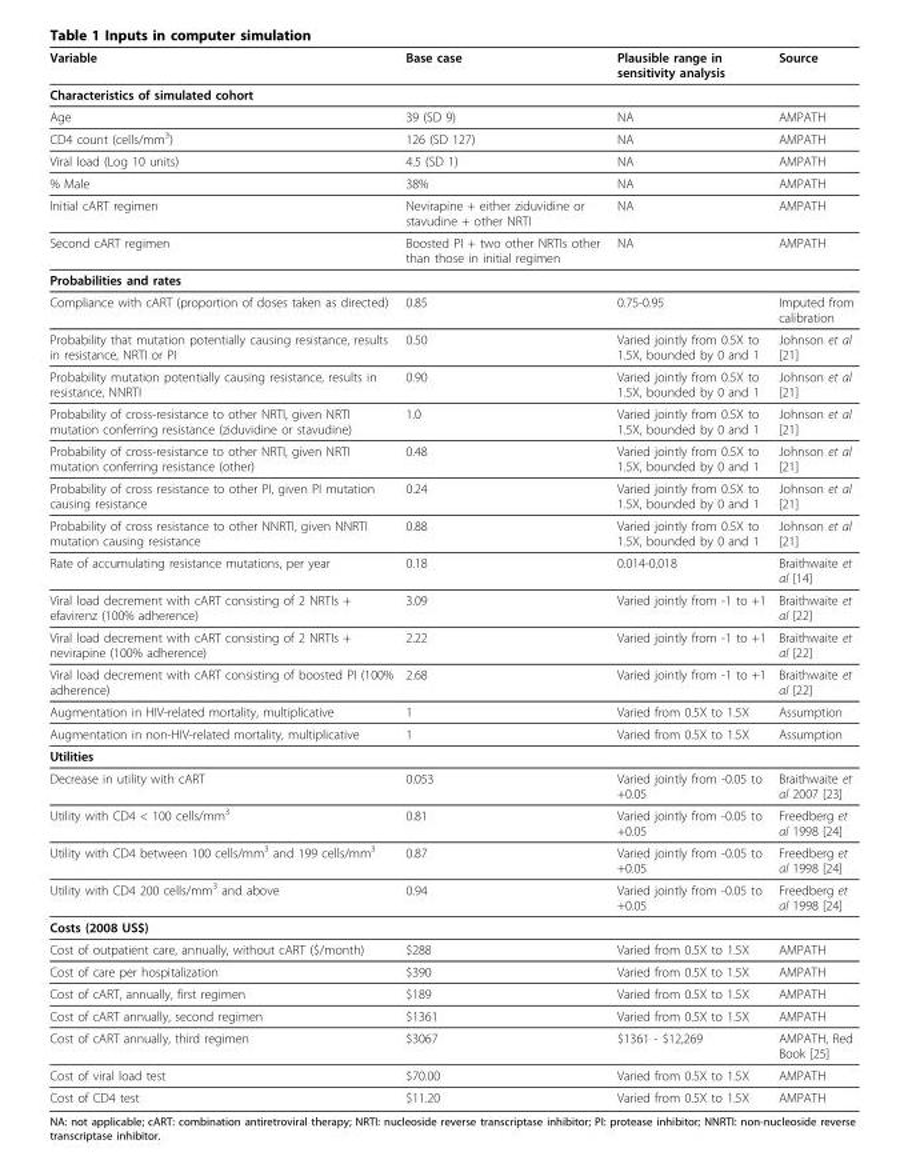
<table><thead><tr><td>Variable</td><td>Base case</td><td>Plausible range in sensitivity analysis</td><td>Source</td></tr></thead><tbody><tr><td colspan="4">Characteristics of simulated cohort</td></tr><tr><td>Age</td><td>39 (SD 9)</td><td>NA</td><td>AMPATH</td></tr><tr><td>CD4 count (cells/mm<sup>3</sup>)</td><td>126 (SD 127)</td><td>NA</td><td>AMPATH</td></tr><tr><td>Viral load (Log 10 units)</td><td>4.5 (SD 1)</td><td>NA</td><td>AMPATH</td></tr><tr><td>% Male</td><td>38%</td><td>NA</td><td>AMPATH</td></tr><tr><td>Initial cART regimen</td><td>Nevirapine + either ziduvidine or stavudine + other NRTI</td><td>NA</td><td>AMPATH</td></tr><tr><td>Second cART regimen</td><td>Boosted PI + two other NRTIs other than those in initial regimen</td><td>NA</td><td>AMPATH</td></tr><tr><td colspan="4">Probabilities and rates</td></tr><tr><td>Compliance with cART (proportion of doses taken as directed)</td><td>0.85</td><td>0.75-0.95</td><td>Imputed from calibration</td></tr><tr><td>Probability that mutation potentially causing resistance, results in resistance, NRTI or PI</td><td>0.50</td><td>Varied jointly from 0.5X to 1.5X, bounded by 0 and 1</td><td>Johnson et al [21]</td></tr><tr><td>Probability mutation potentially causing resistance, results in resistance, NNRTI</td><td>0.90</td><td>Varied jointly from 0.5X to 1.5X, bounded by 0 and 1</td><td>Johnson et al [21]</td></tr><tr><td>Probability of cross-resistance to other NRTI, given NRTI mutation conferring resistance (ziduvidine or stavudine)</td><td>1.0</td><td>Varied jointly from 0.5X to 1.5X, bounded by 0 and 1</td><td>Johnson et al [21]</td></tr><tr><td>Probability of cross-resistance to other NRTI, given NRTI mutation conferring resistance (other)</td><td>0.48</td><td>Varied jointly from 0.5X to 1.5X, bounded by 0 and 1</td><td>Johnson et al [21]</td></tr><tr><td>Probability of cross resistance to other PI, given PI mutation causing resistance</td><td>0.24</td><td>Varied jointly from 0.5X to 1.5X, bounded by 0 and 1</td><td>Johnson et al [21]</td></tr><tr><td>Probability of cross resistance to other NNRTI, given NNRTI mutation causing resistance</td><td>0.88</td><td>Varied jointly from 0.5X to 1.5X, bounded by 0 and 1</td><td>Johnson et al [21]</td></tr><tr><td>Rate of accumulating resistance mutations, per year</td><td>0.18</td><td>0.014-0.018</td><td>Braithwaite et al [14]</td></tr><tr><td>Viral load decrement with cART consisting of 2 NRTIs + efavirenz (100% adherence)</td><td>3.09</td><td>Varied jointly from -1 to +1</td><td>Braithwaite et al [22]</td></tr><tr><td>Viral load decrement with cART consisting of 2 NRTIs + nevirapine (100% adherence)</td><td>2.22</td><td>Varied jointly from -1 to +1</td><td>Braithwaite et al [22]</td></tr><tr><td>Viral load decrement with cART consisting of boosted PI (100% adherence)</td><td>2.68</td><td>Varied jointly from -1 to +1</td><td>Braithwaite et al [22]</td></tr><tr><td>Augmentation in HIV-related mortality, multiplicative</td><td>1</td><td>Varied from 0.5X to 1.5X</td><td>Assumption</td></tr><tr><td>Augmentation in non-HIV-related mortality, multiplicative</td><td>1</td><td>Varied from 0.5X to 1.5X</td><td>Assumption</td></tr><tr><td colspan="4">Utilities</td></tr><tr><td>Decrease in utility with cART</td><td>0.053</td><td>Varied jointly from -0.05 to +0.05</td><td>Braithwaite et al 2007 [23]</td></tr><tr><td>Utility with CD4 &lt; 100 cells/mm<sup>3</sup></td><td>0.81</td><td>Varied jointly from -0.05 to +0.05</td><td>Freedberg et al 1998 [24]</td></tr><tr><td>Utility with CD4 between 100 cells/mm<sup>3</sup> and 199 cells/mm<sup>3</sup></td><td>0.87</td><td>Varied jointly from -0.05 to +0.05</td><td>Freedberg et al 1998 [24]</td></tr><tr><td>Utility with CD4 200 cells/mm<sup>3</sup> and above</td><td>0.94</td><td>Varied jointly from -0.05 to +0.05</td><td>Freedberg et al 1998 [24]</td></tr><tr><td colspan="4">Costs (2008 US$)</td></tr><tr><td>Cost of outpatient care, annually, without cART ($/month)</td><td>$288</td><td>Varied from 0.5X to 1.5X</td><td>AMPATH</td></tr><tr><td>Cost of care per hospitalization</td><td>$390</td><td>Varied from 0.5X to 1.5X</td><td>AMPATH</td></tr><tr><td>Cost of cART, annually, first regimen</td><td>$189</td><td>Varied from 0.5X to 1.5X</td><td>AMPATH</td></tr><tr><td>Cost of cART annually, second regimen</td><td>$1361</td><td>Varied from 0.5X to 1.5X</td><td>AMPATH</td></tr><tr><td>Cost of cART annually, third regimen</td><td>$3067</td><td>$1361 - $12,269</td><td>AMPATH, Red Book [25]</td></tr><tr><td>Cost of viral load test</td><td>$70.00</td><td>Varied from 0.5X to 1.5X</td><td>AMPATH</td></tr><tr><td>Cost of CD4 test</td><td>$11.20</td><td>Varied from 0.5X to 1.5X</td><td>AMPATH</td></tr></tbody></table>